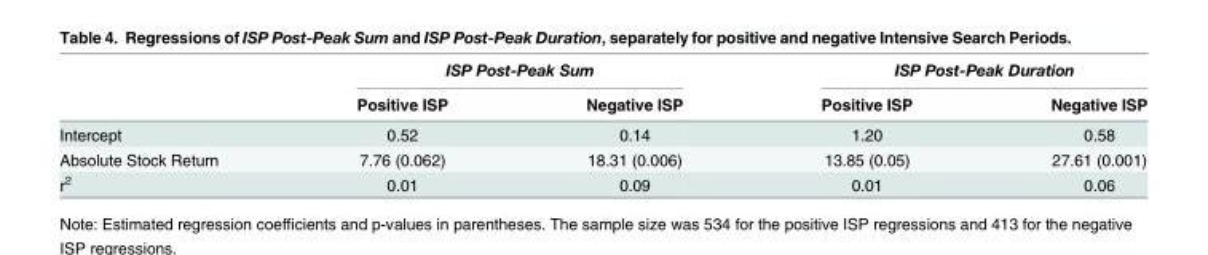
<table><thead><tr><td rowspan="2"></td><td colspan="2">ISP Post-Peak Sum</td><td colspan="2">ISP Post-Peak Duration</td></tr><tr><td>Positive ISP</td><td>Negative ISP</td><td>Positive ISP</td><td>Negative ISP</td></tr></thead><tbody><tr><td>Intercept</td><td>0.52</td><td>0.14</td><td>1.20</td><td>0.58</td></tr><tr><td>Absolute Stock Return</td><td>7.76 (0.062)</td><td>18.31 (0.006)</td><td>13.85 (0.05)</td><td>27.61 (0.001)</td></tr><tr><td>r<sup>2</sup></td><td>0.01</td><td>0.09</td><td>0.01</td><td>0.06</td></tr></tbody></table>